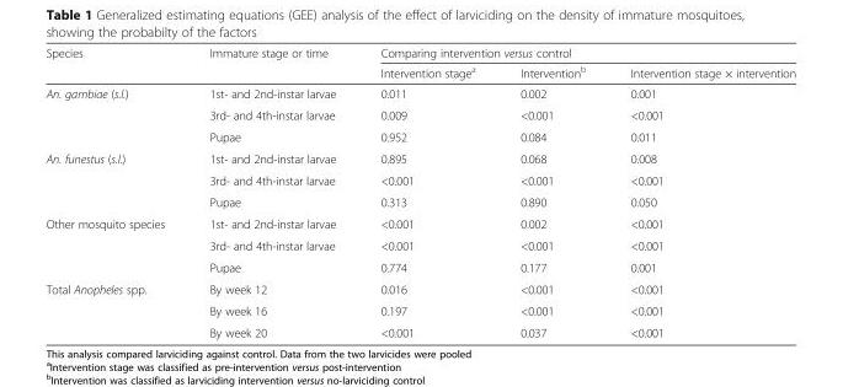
<table><thead><tr><td rowspan="2">Species</td><td rowspan="2">Immature stage or time</td><td colspan="3">Comparing intervention versus control</td></tr><tr><td>Intervention stage<sup>a</sup></td><td>Intervention<sup>b</sup></td><td>Intervention stage × intervention</td></tr></thead><tbody><tr><td rowspan="3">An. gambiae (s.l.)</td><td>1st- and 2nd-instar larvae</td><td>0.011</td><td>0.002</td><td>0.001</td></tr><tr><td>3rd- and 4th-instar larvae</td><td>0.009</td><td>&lt;0.001</td><td>&lt;0.001</td></tr><tr><td>Pupae</td><td>0.952</td><td>0.084</td><td>0.011</td></tr><tr><td rowspan="3">An. funestus (s.l.)</td><td>1st- and 2nd-instar larvae</td><td>0.895</td><td>0.068</td><td>0.008</td></tr><tr><td>3rd- and 4th-instar larvae</td><td>&lt;0.001</td><td>&lt;0.001</td><td>&lt;0.001</td></tr><tr><td>Pupae</td><td>0.313</td><td>0.890</td><td>0.050</td></tr><tr><td rowspan="3">Other mosquito species</td><td>1st- and 2nd-instar larvae</td><td>&lt;0.001</td><td>0.002</td><td>&lt;0.001</td></tr><tr><td>3rd- and 4th-instar larvae</td><td>&lt;0.001</td><td>&lt;0.001</td><td>&lt;0.001</td></tr><tr><td>Pupae</td><td>0.774</td><td>0.177</td><td>0.001</td></tr><tr><td rowspan="3">Total Anopheles spp.</td><td>By week 12</td><td>0.016</td><td>&lt;0.001</td><td>&lt;0.001</td></tr><tr><td>By week 16</td><td>0.197</td><td>&lt;0.001</td><td>&lt;0.001</td></tr><tr><td>By week 20</td><td>&lt;0.001</td><td>0.037</td><td>&lt;0.001</td></tr></tbody></table>